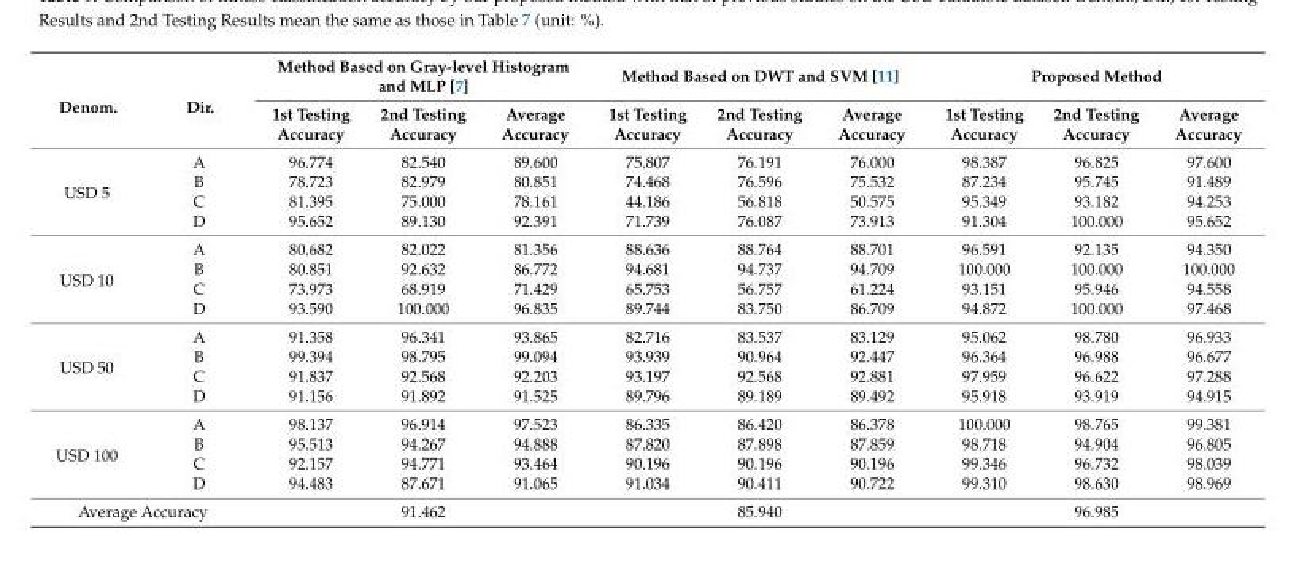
<table><thead><tr><td rowspan="2">Denom.</td><td rowspan="2">Dir.</td><td colspan="3">Method Based on Gray-level Histogram and MLP [7]</td><td colspan="3">Method Based on DWT and SVM [11]</td><td colspan="3">Proposed Method</td></tr><tr><td>1st Testing Accuracy</td><td>2nd Testing Accuracy</td><td>Average Accuracy</td><td>1st Testing Accuracy</td><td>2nd Testing Accuracy</td><td>Average Accuracy</td><td>1st Testing Accuracy</td><td>2nd Testing Accuracy</td><td>Average Accuracy</td></tr></thead><tbody><tr><td rowspan="4">USD 5</td><td>A</td><td>96.774</td><td>82.540</td><td>89.600</td><td>75.807</td><td>76.191</td><td>76.000</td><td>98.387</td><td>96.825</td><td>97.600</td></tr><tr><td>B</td><td>78.723</td><td>82.979</td><td>80.851</td><td>74.468</td><td>76.596</td><td>75.532</td><td>87.234</td><td>95.745</td><td>91.489</td></tr><tr><td>C</td><td>81.395</td><td>75.000</td><td>78.161</td><td>44.186</td><td>56.818</td><td>50.575</td><td>95.349</td><td>93.182</td><td>94.253</td></tr><tr><td>D</td><td>95.652</td><td>89.130</td><td>92.391</td><td>71.739</td><td>76.087</td><td>73.913</td><td>91.304</td><td>100.000</td><td>95.652</td></tr><tr><td rowspan="4">USD 10</td><td>A</td><td>80.682</td><td>82.022</td><td>81.356</td><td>88.636</td><td>88.764</td><td>88.701</td><td>96.591</td><td>92.135</td><td>94.350</td></tr><tr><td>B</td><td>80.851</td><td>92.632</td><td>86.772</td><td>94.681</td><td>94.737</td><td>94.709</td><td>100.000</td><td>100.000</td><td>100.000</td></tr><tr><td>C</td><td>73.973</td><td>68.919</td><td>71.429</td><td>65.753</td><td>56.757</td><td>61.224</td><td>93.151</td><td>95.946</td><td>94.558</td></tr><tr><td>D</td><td>93.590</td><td>100.000</td><td>96.835</td><td>89.744</td><td>83.750</td><td>86.709</td><td>94.872</td><td>100.000</td><td>97.468</td></tr><tr><td rowspan="4">USD 50</td><td>A</td><td>91.358</td><td>96.341</td><td>93.865</td><td>82.716</td><td>83.537</td><td>83.129</td><td>95.062</td><td>98.780</td><td>96.933</td></tr><tr><td>B</td><td>99.394</td><td>98.795</td><td>99.094</td><td>93.939</td><td>90.964</td><td>92.447</td><td>96.364</td><td>96.988</td><td>96.677</td></tr><tr><td>C</td><td>91.837</td><td>92.568</td><td>92.203</td><td>93.197</td><td>92.568</td><td>92.881</td><td>97.959</td><td>96.622</td><td>97.288</td></tr><tr><td>D</td><td>91.156</td><td>91.892</td><td>91.525</td><td>89.796</td><td>89.189</td><td>89.492</td><td>95.918</td><td>93.919</td><td>94.915</td></tr><tr><td rowspan="4">USD 100</td><td>A</td><td>98.137</td><td>96.914</td><td>97.523</td><td>86.335</td><td>86.420</td><td>86.378</td><td>100.000</td><td>98.765</td><td>99.381</td></tr><tr><td>B</td><td>95.513</td><td>94.267</td><td>94.888</td><td>87.820</td><td>87.898</td><td>87.859</td><td>98.718</td><td>94.904</td><td>96.805</td></tr><tr><td>C</td><td>92.157</td><td>94.771</td><td>93.464</td><td>90.196</td><td>90.196</td><td>90.196</td><td>99.346</td><td>96.732</td><td>98.039</td></tr><tr><td>D</td><td>94.483</td><td>87.671</td><td>91.065</td><td>91.034</td><td>90.411</td><td>90.722</td><td>99.310</td><td>98.630</td><td>98.969</td></tr><tr><td colspan="2">Average Accuracy</td><td colspan="3">91.462</td><td colspan="3">85.940</td><td colspan="3">96.985</td></tr></tbody></table>